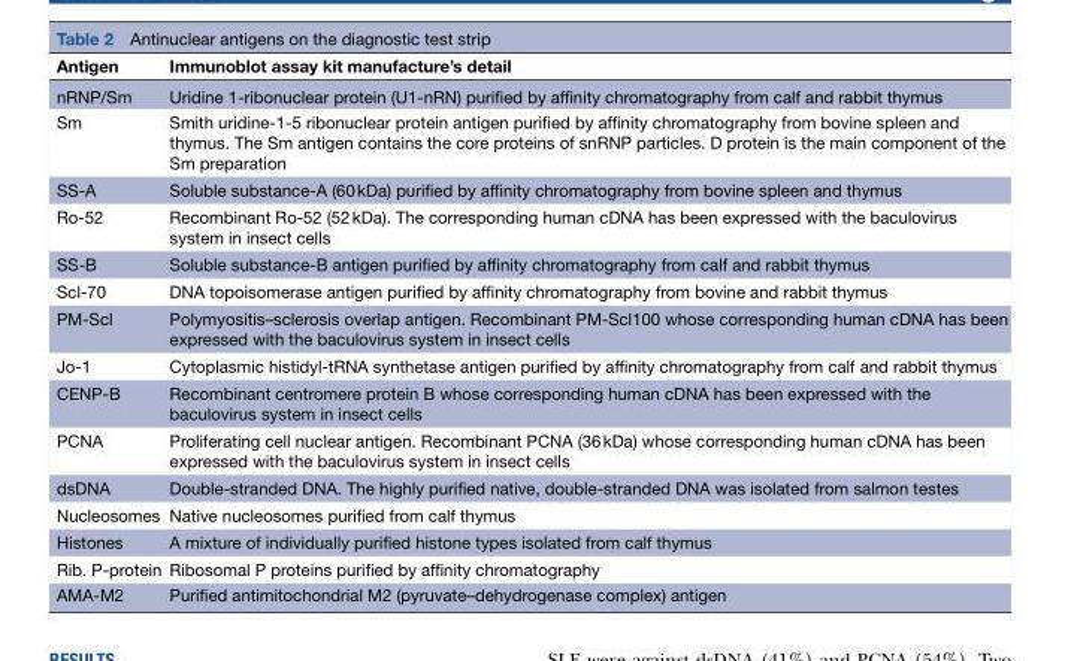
<table><thead><tr><td>Antigen</td><td>Immunoblot assay kit manufacture’s detail</td></tr></thead><tbody><tr><td>nRNP/Sm</td><td>Uridine 1-ribonuclear protein (U1-nRN) purified by affinity chromatography from calf and rabbit thymus</td></tr><tr><td>Sm</td><td>Smith uridine-1-5 ribonuclear protein antigen purified by affinity chromatography from bovine spleen and thymus. The Sm antigen contains the core proteins of snRNP particles. D protein is the main component of the Sm preparation</td></tr><tr><td>SS-A</td><td>Soluble substance-A (60 kDa) purified by affinity chromatography from bovine spleen and thymus</td></tr><tr><td>Ro-52</td><td>Recombinant Ro-52 (52 kDa). The corresponding human cDNA has been expressed with the baculovirus system in insect cells</td></tr><tr><td>SS-B</td><td>Soluble substance-B antigen purified by affinity chromatography from calf and rabbit thymus</td></tr><tr><td>Scl-70</td><td>DNA topoisomerase antigen purified by affinity chromatography from bovine and rabbit thymus</td></tr><tr><td>PM-Scl</td><td>Polymyositis–sclerosis overlap antigen. Recombinant PM-Scl100 whose corresponding human cDNA has been expressed with the baculovirus system in insect cells</td></tr><tr><td>Jo-1</td><td>Cytoplasmic histidyl-tRNA synthetase antigen purified by affinity chromatography from calf and rabbit thymus</td></tr><tr><td>CENP-B</td><td>Recombinant centromere protein B whose corresponding human cDNA has been expressed with the baculovirus system in insect cells</td></tr><tr><td>PCNA</td><td>Proliferating cell nuclear antigen. Recombinant PCNA (36 kDa) whose corresponding human cDNA has been expressed with the baculovirus system in insect cells</td></tr><tr><td>dsDNA</td><td>Double-stranded DNA. The highly purified native, double-stranded DNA was isolated from salmon testes</td></tr><tr><td>Nucleosomes</td><td>Native nucleosomes purified from calf thymus</td></tr><tr><td>Histones</td><td>A mixture of individually purified histone types isolated from calf thymus</td></tr><tr><td>Rib. P-protein</td><td>Ribosomal P proteins purified by affinity chromatography</td></tr><tr><td>AMA-M2</td><td>Purified antimitochondrial M2 (pyruvate–dehydrogenase complex) antigen</td></tr></tbody></table>